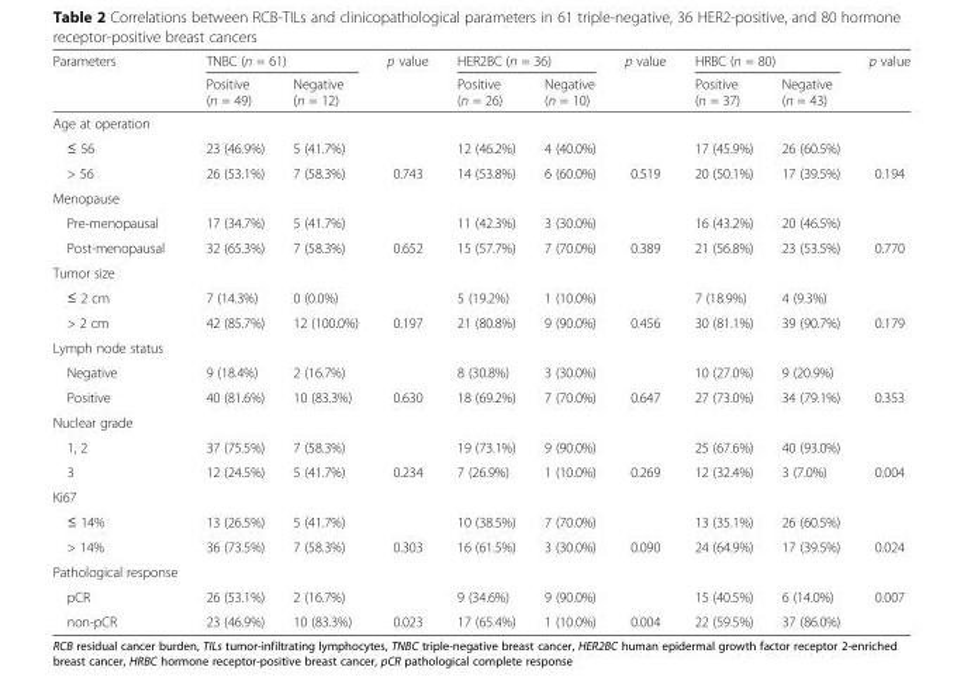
<table><thead><tr><td rowspan="2">Parameters</td><td colspan="2">TNBC (n = 61)</td><td rowspan="2">p value</td><td colspan="2">HER2BC (n = 36)</td><td rowspan="2">p value</td><td colspan="2">HRBC (n = 80)</td><td rowspan="2">p value</td></tr><tr><td>Positive (n = 49)</td><td>Negative (n = 12)</td><td>Positive (n = 26)</td><td>Negative (n = 10)</td><td>Positive (n = 37)</td><td>Negative (n = 43)</td></tr></thead><tbody><tr><td colspan="10">Age at operation</td></tr><tr><td>≤ 56</td><td>23 (46.9%)</td><td>5 (41.7%)</td><td></td><td>12 (46.2%)</td><td>4 (40.0%)</td><td></td><td>17 (45.9%)</td><td>26 (60.5%)</td><td></td></tr><tr><td>&gt; 56</td><td>26 (53.1%)</td><td>7 (58.3%)</td><td>0.743</td><td>14 (53.8%)</td><td>6 (60.0%)</td><td>0.519</td><td>20 (50.1%)</td><td>17 (39.5%)</td><td>0.194</td></tr><tr><td colspan="10">Menopause</td></tr><tr><td>Pre-menopausal</td><td>17 (34.7%)</td><td>5 (41.7%)</td><td></td><td>11 (42.3%)</td><td>3 (30.0%)</td><td></td><td>16 (43.2%)</td><td>20 (46.5%)</td><td></td></tr><tr><td>Post-menopausal</td><td>32 (65.3%)</td><td>7 (58.3%)</td><td>0.652</td><td>15 (57.7%)</td><td>7 (70.0%)</td><td>0.389</td><td>21 (56.8%)</td><td>23 (53.5%)</td><td>0.770</td></tr><tr><td colspan="10">Tumor size</td></tr><tr><td>≤ 2 cm</td><td>7 (14.3%)</td><td>0 (0.0%)</td><td></td><td>5 (19.2%)</td><td>1 (10.0%)</td><td></td><td>7 (18.9%)</td><td>4 (9.3%)</td><td></td></tr><tr><td>&gt; 2 cm</td><td>42 (85.7%)</td><td>12 (100.0%)</td><td>0.197</td><td>21 (80.8%)</td><td>9 (90.0%)</td><td>0.456</td><td>30 (81.1%)</td><td>39 (90.7%)</td><td>0.179</td></tr><tr><td colspan="10">Lymph node status</td></tr><tr><td>Negative</td><td>9 (18.4%)</td><td>2 (16.7%)</td><td></td><td>8 (30.8%)</td><td>3 (30.0%)</td><td></td><td>10 (27.0%)</td><td>9 (20.9%)</td><td></td></tr><tr><td>Positive</td><td>40 (81.6%)</td><td>10 (83.3%)</td><td>0.630</td><td>18 (69.2%)</td><td>7 (70.0%)</td><td>0.647</td><td>27 (73.0%)</td><td>34 (79.1%)</td><td>0.353</td></tr><tr><td colspan="10">Nuclear grade</td></tr><tr><td>1, 2</td><td>37 (75.5%)</td><td>7 (58.3%)</td><td></td><td>19 (73.1%)</td><td>9 (90.0%)</td><td></td><td>25 (67.6%)</td><td>40 (93.0%)</td><td></td></tr><tr><td>3</td><td>12 (24.5%)</td><td>5 (41.7%)</td><td>0.234</td><td>7 (26.9%)</td><td>1 (10.0%)</td><td>0.269</td><td>12 (32.4%)</td><td>3 (7.0%)</td><td>0.004</td></tr><tr><td colspan="10">Ki67</td></tr><tr><td>≤ 14%</td><td>13 (26.5%)</td><td>5 (41.7%)</td><td></td><td>10 (38.5%)</td><td>7 (70.0%)</td><td></td><td>13 (35.1%)</td><td>26 (60.5%)</td><td></td></tr><tr><td>&gt; 14%</td><td>36 (73.5%)</td><td>7 (58.3%)</td><td>0.303</td><td>16 (61.5%)</td><td>3 (30.0%)</td><td>0.090</td><td>24 (64.9%)</td><td>17 (39.5%)</td><td>0.024</td></tr><tr><td colspan="10">Pathological response</td></tr><tr><td>pCR</td><td>26 (53.1%)</td><td>2 (16.7%)</td><td></td><td>9 (34.6%)</td><td>9 (90.0%)</td><td></td><td>15 (40.5%)</td><td>6 (14.0%)</td><td>0.007</td></tr><tr><td>non-pCR</td><td>23 (46.9%)</td><td>10 (83.3%)</td><td>0.023</td><td>17 (65.4%)</td><td>1 (10.0%)</td><td>0.004</td><td>22 (59.5%)</td><td>37 (86.0%)</td><td></td></tr></tbody></table>